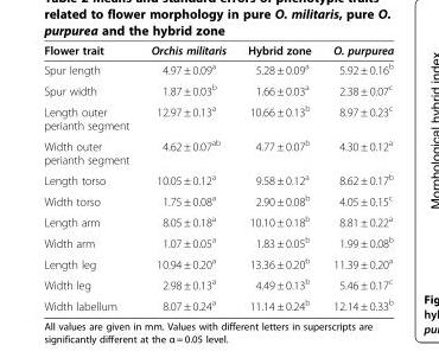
<table><thead><tr><td>Flower trait</td><td>Orchis militaris</td><td>Hybrid zone</td><td>O. purpurea</td></tr></thead><tbody><tr><td>Spur length</td><td>4.97 ± 0.09<sup>a</sup></td><td>5.28 ± 0.09<sup>a</sup></td><td>5.92 ± 0.16<sup>b</sup></td></tr><tr><td>Spur width</td><td>1.87 ± 0.03<sup>b</sup></td><td>1.66 ± 0.03<sup>a</sup></td><td>2.38 ± 0.07<sup>c</sup></td></tr><tr><td>Length outer perianth segment</td><td>12.97 ± 0.13<sup>a</sup></td><td>10.66 ± 0.13<sup>b</sup></td><td>8.97 ± 0.23<sup>c</sup></td></tr><tr><td>Width outer perianth segment</td><td>4.62 ± 0.07<sup>ab</sup></td><td>4.77 ± 0.07<sup>b</sup></td><td>4.30 ± 0.12<sup>a</sup></td></tr><tr><td>Length torso</td><td>10.05 ± 0.12<sup>a</sup></td><td>9.58 ± 0.12<sup>a</sup></td><td>8.62 ± 0.17<sup>b</sup></td></tr><tr><td>Width torso</td><td>1.75 ± 0.08<sup>a</sup></td><td>2.90 ± 0.08<sup>b</sup></td><td>4.05 ± 0.15<sup>c</sup></td></tr><tr><td>Length arm</td><td>8.05 ± 0.18<sup>a</sup></td><td>10.10 ± 0.18<sup>b</sup></td><td>8.81 ± 0.22<sup>a</sup></td></tr><tr><td>Width arm</td><td>1.07 ± 0.05<sup>a</sup></td><td>1.83 ± 0.05<sup>b</sup></td><td>1.99 ± 0.08<sup>b</sup></td></tr><tr><td>Length leg</td><td>10.94 ± 0.20<sup>a</sup></td><td>13.36 ± 0.20<sup>b</sup></td><td>11.39 ± 0.20<sup>a</sup></td></tr><tr><td>Width leg</td><td>2.98 ± 0.13<sup>a</sup></td><td>4.49 ± 0.13<sup>b</sup></td><td>5.46 ± 0.17<sup>c</sup></td></tr><tr><td>Width labellum</td><td>8.07 ± 0.24<sup>a</sup></td><td>11.14 ± 0.24<sup>b</sup></td><td>12.14 ± 0.33<sup>b</sup></td></tr></tbody></table>